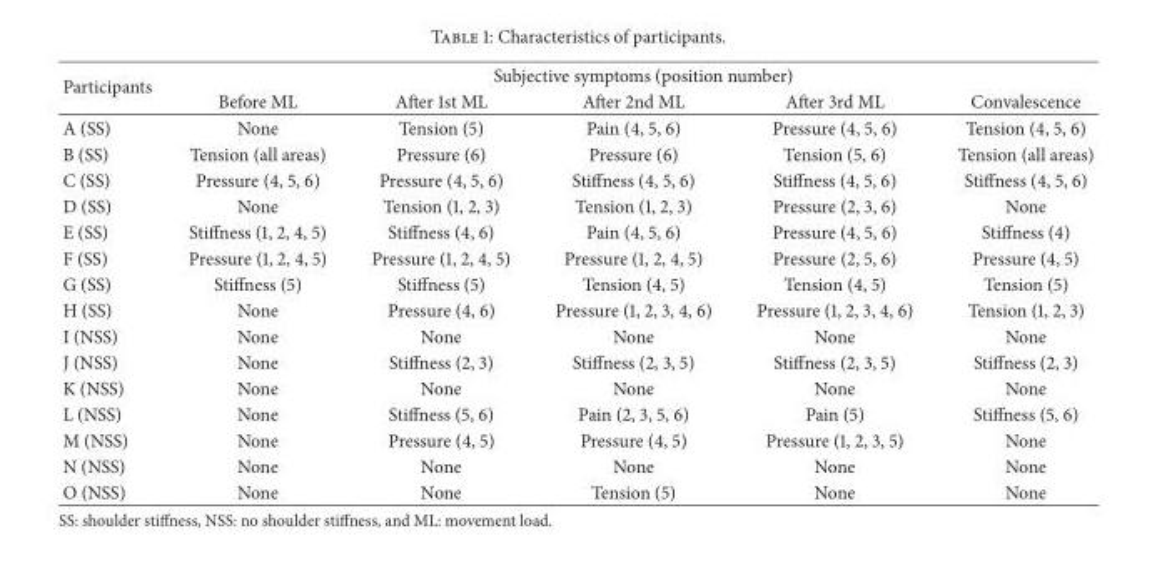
<table><thead><tr><td rowspan="2">Participants</td><td colspan="5">Subjective symptoms (position number)</td></tr><tr><td>Before ML</td><td>After 1st ML</td><td>After 2nd ML</td><td>After 3rd ML</td><td>Convalescence</td></tr></thead><tbody><tr><td>A (SS)</td><td>None</td><td>Tension (5)</td><td>Pain (4, 5, 6)</td><td>Pressure (4, 5, 6)</td><td>Tension (4, 5, 6)</td></tr><tr><td>B (SS)</td><td>Tension (all areas)</td><td>Pressure (6)</td><td>Pressure (6)</td><td>Tension (5, 6)</td><td>Tension (all areas)</td></tr><tr><td>C (SS)</td><td>Pressure (4, 5, 6)</td><td>Pressure (4, 5, 6)</td><td>Stiffness (4, 5, 6)</td><td>Stiffness (4, 5, 6)</td><td>Stiffness (4, 5, 6)</td></tr><tr><td>D (SS)</td><td>None</td><td>Tension (1, 2, 3)</td><td>Tension (1, 2, 3)</td><td>Pressure (2, 3, 6)</td><td>None</td></tr><tr><td>E (SS)</td><td>Stiffness (1, 2, 4, 5)</td><td>Stiffness (4, 6)</td><td>Pain (4, 5, 6)</td><td>Pressure (4, 5, 6)</td><td>Stiffness (4)</td></tr><tr><td>F (SS)</td><td>Pressure (1, 2, 4, 5)</td><td>Pressure (1, 2, 4, 5)</td><td>Pressure (1, 2, 4, 5)</td><td>Pressure (2, 5, 6)</td><td>Pressure (4, 5)</td></tr><tr><td>G (SS)</td><td>Stiffness (5)</td><td>Stiffness (5)</td><td>Tension (4, 5)</td><td>Tension (4, 5)</td><td>Tension (5)</td></tr><tr><td>H (SS)</td><td>None</td><td>Pressure (4, 6)</td><td>Pressure (1, 2, 3, 4, 6)</td><td>Pressure (1, 2, 3, 4, 6)</td><td>Tension (1, 2, 3)</td></tr><tr><td>I (NSS)</td><td>None</td><td>None</td><td>None</td><td>None</td><td>None</td></tr><tr><td>J (NSS)</td><td>None</td><td>Stiffness (2, 3)</td><td>Stiffness (2, 3, 5)</td><td>Stiffness (2, 3, 5)</td><td>Stiffness (2, 3)</td></tr><tr><td>K (NSS)</td><td>None</td><td>None</td><td>None</td><td>None</td><td>None</td></tr><tr><td>L (NSS)</td><td>None</td><td>Stiffness (5, 6)</td><td>Pain (2, 3, 5, 6)</td><td>Pain (5)</td><td>Stiffness (5, 6)</td></tr><tr><td>M (NSS)</td><td>None</td><td>Pressure (4, 5)</td><td>Pressure (4, 5)</td><td>Pressure (1, 2, 3, 5)</td><td>None</td></tr><tr><td>N (NSS)</td><td>None</td><td>None</td><td>None</td><td>None</td><td>None</td></tr><tr><td>O (NSS)</td><td>None</td><td>None</td><td>Tension (5)</td><td>None</td><td>None</td></tr></tbody></table>